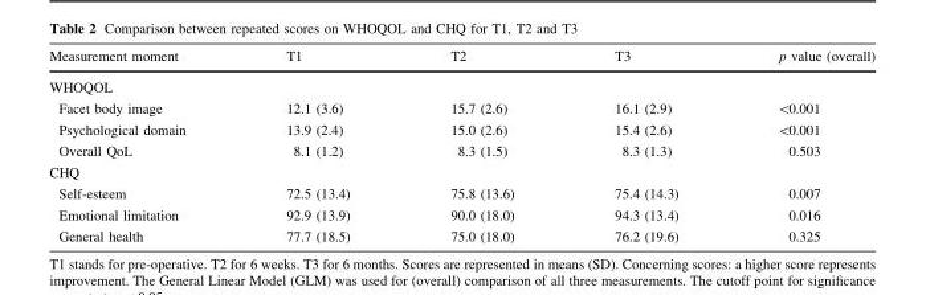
<table><thead><tr><td>Measurement moment</td><td>T1</td><td>T2</td><td>T3</td><td>p value (overall)</td></tr></thead><tbody><tr><td colspan="5">WHOQOL</td></tr><tr><td>Facet body image</td><td>12.1 (3.6)</td><td>15.7 (2.6)</td><td>16.1 (2.9)</td><td>&lt;0.001</td></tr><tr><td>Psychological domain</td><td>13.9 (2.4)</td><td>15.0 (2.6)</td><td>15.4 (2.6)</td><td>&lt;0.001</td></tr><tr><td>Overall QoL</td><td>8.1 (1.2)</td><td>8.3 (1.5)</td><td>8.3 (1.3)</td><td>0.503</td></tr><tr><td colspan="5">CHQ</td></tr><tr><td>Self-esteem</td><td>72.5 (13.4)</td><td>75.8 (13.6)</td><td>75.4 (14.3)</td><td>0.007</td></tr><tr><td>Emotional limitation</td><td>92.9 (13.9)</td><td>90.0 (18.0)</td><td>94.3 (13.4)</td><td>0.016</td></tr><tr><td>General health</td><td>77.7 (18.5)</td><td>75.0 (18.0)</td><td>76.2 (19.6)</td><td>0.325</td></tr></tbody></table>